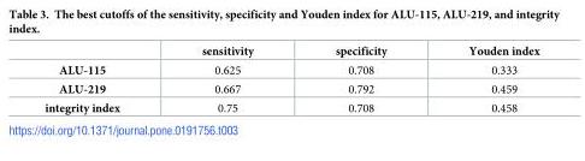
<table><thead><tr><td></td><td>sensitivity</td><td>specificity</td><td>Youden index</td></tr></thead><tbody><tr><td>ALU-115</td><td>0.625</td><td>0.708</td><td>0.333</td></tr><tr><td>ALU-219</td><td>0.667</td><td>0.792</td><td>0.459</td></tr><tr><td>integrity index</td><td>0.75</td><td>0.708</td><td>0.458</td></tr></tbody></table>